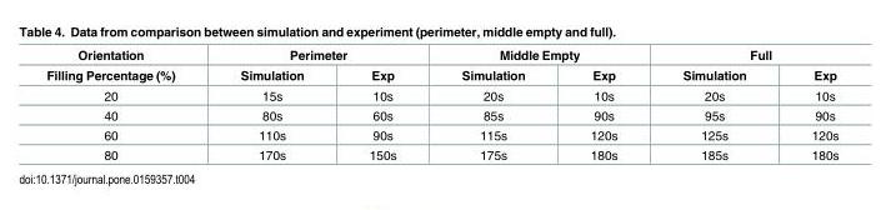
<table><thead><tr><td rowspan="2">Orientation Filling Percentage (%)</td><td colspan="2">Perimeter</td><td colspan="2">Middle Empty</td><td colspan="2">Full</td></tr><tr><td>Simulation</td><td>Exp</td><td>Simulation</td><td>Exp</td><td>Simulation</td><td>Exp</td></tr></thead><tbody><tr><td>20</td><td>15s</td><td>10s</td><td>20s</td><td>10s</td><td>20s</td><td>10s</td></tr><tr><td>40</td><td>80s</td><td>60s</td><td>85s</td><td>90s</td><td>95s</td><td>90s</td></tr><tr><td>60</td><td>110s</td><td>90s</td><td>115s</td><td>120s</td><td>125s</td><td>120s</td></tr><tr><td>80</td><td>170s</td><td>150s</td><td>175s</td><td>180s</td><td>185s</td><td>180s</td></tr></tbody></table>